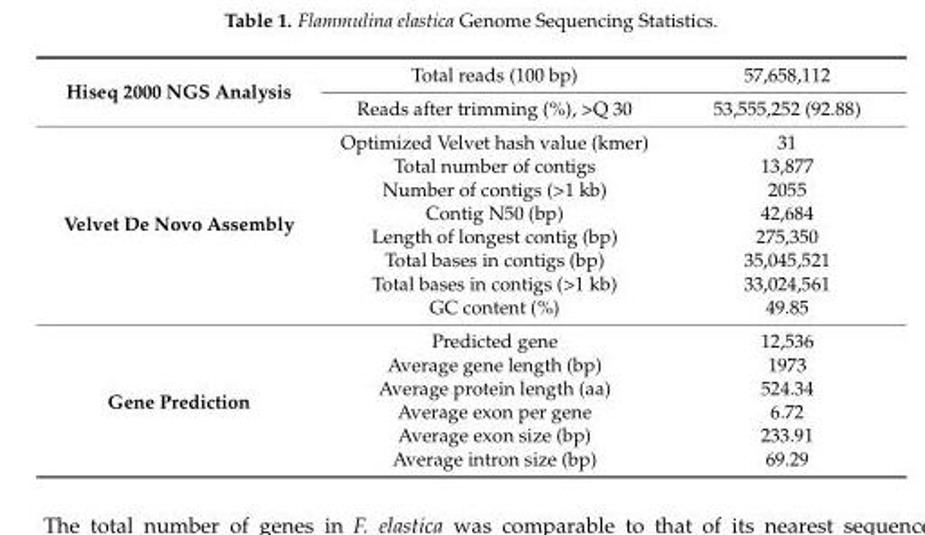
<table><tbody><tr><td rowspan="2">Hiseq 2000 NGS Analysis</td><td>Total reads (100 bp)</td><td>57,658,112</td></tr><tr><td>Reads after trimming (%), &gt;Q 30</td><td>53,555,252 (92.88)</td></tr><tr><td rowspan="8">Velvet De Novo Assembly</td><td>Optimized Velvet hash value (kmer)</td><td>31</td></tr><tr><td>Total number of contigs</td><td>13,877</td></tr><tr><td>Number of contigs (&gt;1 kb)</td><td>2055</td></tr><tr><td>Contig N50 (bp)</td><td>42,684</td></tr><tr><td>Length of longest contig (bp)</td><td>275,350</td></tr><tr><td>Total bases in contigs (bp)</td><td>35,045,521</td></tr><tr><td>Total bases in contigs (&gt;1 kb)</td><td>33,024,561</td></tr><tr><td>GC content (%)</td><td>49.85</td></tr><tr><td rowspan="6">Gene Prediction</td><td>Predicted gene</td><td>12,536</td></tr><tr><td>Average gene length (bp)</td><td>1973</td></tr><tr><td>Average protein length (aa)</td><td>524.34</td></tr><tr><td>Average exon per gene</td><td>6.72</td></tr><tr><td>Average exon size (bp)</td><td>233.91</td></tr><tr><td>Average intron size (bp)</td><td>69.29</td></tr></tbody></table>